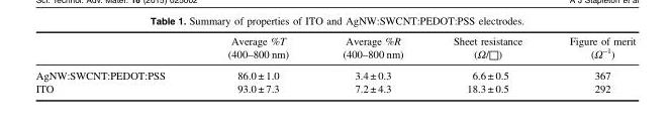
<table><thead><tr><td></td><td>Average %T (400–800 nm)</td><td>Average %R (400–800 nm)</td><td>Sheet resistance (Ω/□)</td><td>Figure of merit (Ω<sup>−1</sup>)</td></tr></thead><tbody><tr><td>AgNW:SWCNT:PEDOT:PSS</td><td>86.0 ± 1.0</td><td>3.4 ± 0.3</td><td>6.6 ± 0.5</td><td>367</td></tr><tr><td>ITO</td><td>93.0 ± 7.3</td><td>7.2 ± 4.3</td><td>18.3 ± 0.5</td><td>292</td></tr></tbody></table>